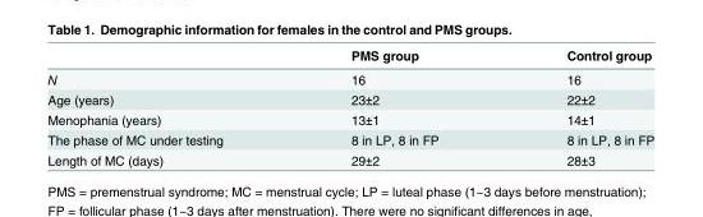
<table><thead><tr><td></td><td>PMS group</td><td>Control group</td></tr></thead><tbody><tr><td>N</td><td>16</td><td>16</td></tr><tr><td>Age (years)</td><td>23±2</td><td>22±2</td></tr><tr><td>Menophania (years)</td><td>13±1</td><td>14±1</td></tr><tr><td>The phase of MC under testing</td><td>8 in LP, 8 in FP</td><td>8 in LP, 8 in FP</td></tr><tr><td>Length of MC (days)</td><td>29±2</td><td>28±3</td></tr></tbody></table>